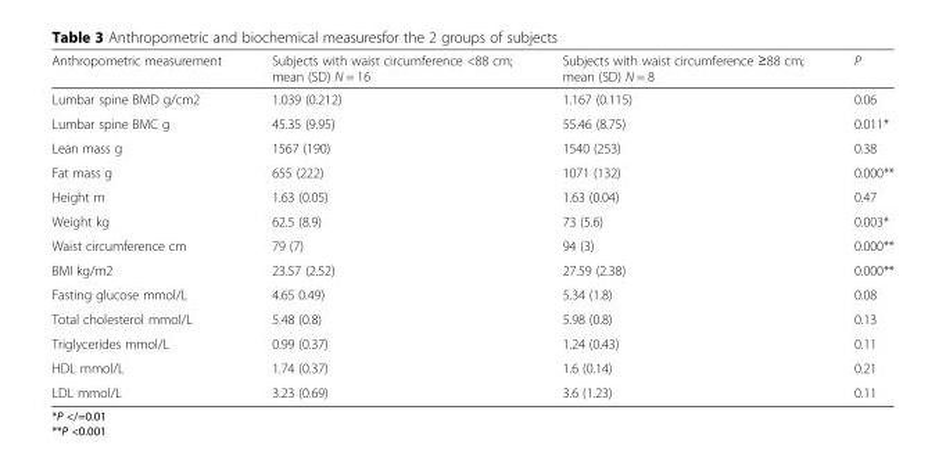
<table><thead><tr><td>Anthropometric measurement</td><td>Subjects with waist circumference &lt;88 cm; mean (SD) N = 16</td><td>Subjects with waist circumference ≥88 cm; mean (SD) N = 8</td><td>P</td></tr></thead><tbody><tr><td>Lumbar spine BMD g/cm2</td><td>1.039 (0.212)</td><td>1.167 (0.115)</td><td>0.06</td></tr><tr><td>Lumbar spine BMC g</td><td>45.35 (9.95)</td><td>55.46 (8.75)</td><td>0.011*</td></tr><tr><td>Lean mass g</td><td>1567 (190)</td><td>1540 (253)</td><td>0.38</td></tr><tr><td>Fat mass g</td><td>655 (222)</td><td>1071 (132)</td><td>0.000**</td></tr><tr><td>Height m</td><td>1.63 (0.05)</td><td>1.63 (0.04)</td><td>0.47</td></tr><tr><td>Weight kg</td><td>62.5 (8.9)</td><td>73 (5.6)</td><td>0.003*</td></tr><tr><td>Waist circumference cm</td><td>79 (7)</td><td>94 (3)</td><td>0.000**</td></tr><tr><td>BMI kg/m2</td><td>23.57 (2.52)</td><td>27.59 (2.38)</td><td>0.000**</td></tr><tr><td>Fasting glucose mmol/L</td><td>4.65 0.49)</td><td>5.34 (1.8)</td><td>0.08</td></tr><tr><td>Total cholesterol mmol/L</td><td>5.48 (0.8)</td><td>5.98 (0.8)</td><td>0.13</td></tr><tr><td>Triglycerides mmol/L</td><td>0.99 (0.37)</td><td>1.24 (0.43)</td><td>0.11</td></tr><tr><td>HDL mmol/L</td><td>1.74 (0.37)</td><td>1.6 (0.14)</td><td>0.21</td></tr><tr><td>LDL mmol/L</td><td>3.23 (0.69)</td><td>3.6 (1.23)</td><td>0.11</td></tr></tbody></table>